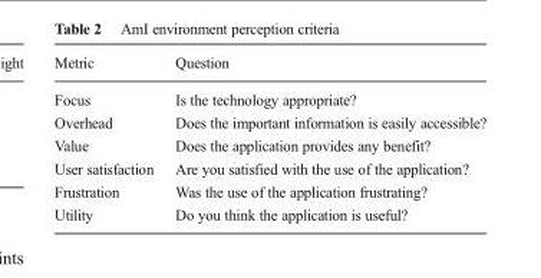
<table><thead><tr><td>Metric</td><td>Question</td></tr></thead><tbody><tr><td>Focus</td><td>Is the technology appropriate?</td></tr><tr><td>Overhead</td><td>Does the important information is easily accessible?</td></tr><tr><td>Value</td><td>Does the application provides any benefit?</td></tr><tr><td>User satisfaction</td><td>Are you satisfied with the use of the application?</td></tr><tr><td>Frustration</td><td>Was the use of the application frustrating?</td></tr><tr><td>Utility</td><td>Do you think the application is useful?</td></tr></tbody></table>